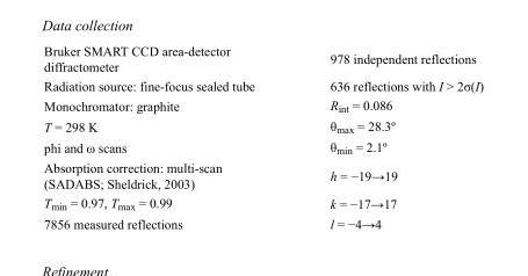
<table><tbody><tr><td>Bruker SMART CCD area-detector diffractometer</td><td>978 independent reflections</td></tr><tr><td>Radiation source: fine-focus sealed tube</td><td>636 reflections with I &gt; 2σ(I)</td></tr><tr><td>Monochromator: graphite</td><td>R<sub>int</sub> = 0.086</td></tr><tr><td>T = 298 K</td><td>θ<sub>max</sub> = 28.3º</td></tr><tr><td>phi and ω scans</td><td>θ<sub>min</sub> = 2.1º</td></tr><tr><td>Absorption correction: multi-scan (SADABS; Sheldrick, 2003)</td><td>h = −19→19</td></tr><tr><td>T<sub>min</sub> = 0.97, T<sub>max</sub> = 0.99</td><td>k = −17→17</td></tr><tr><td>7856 measured reflections</td><td>l = −4→4</td></tr></tbody></table>